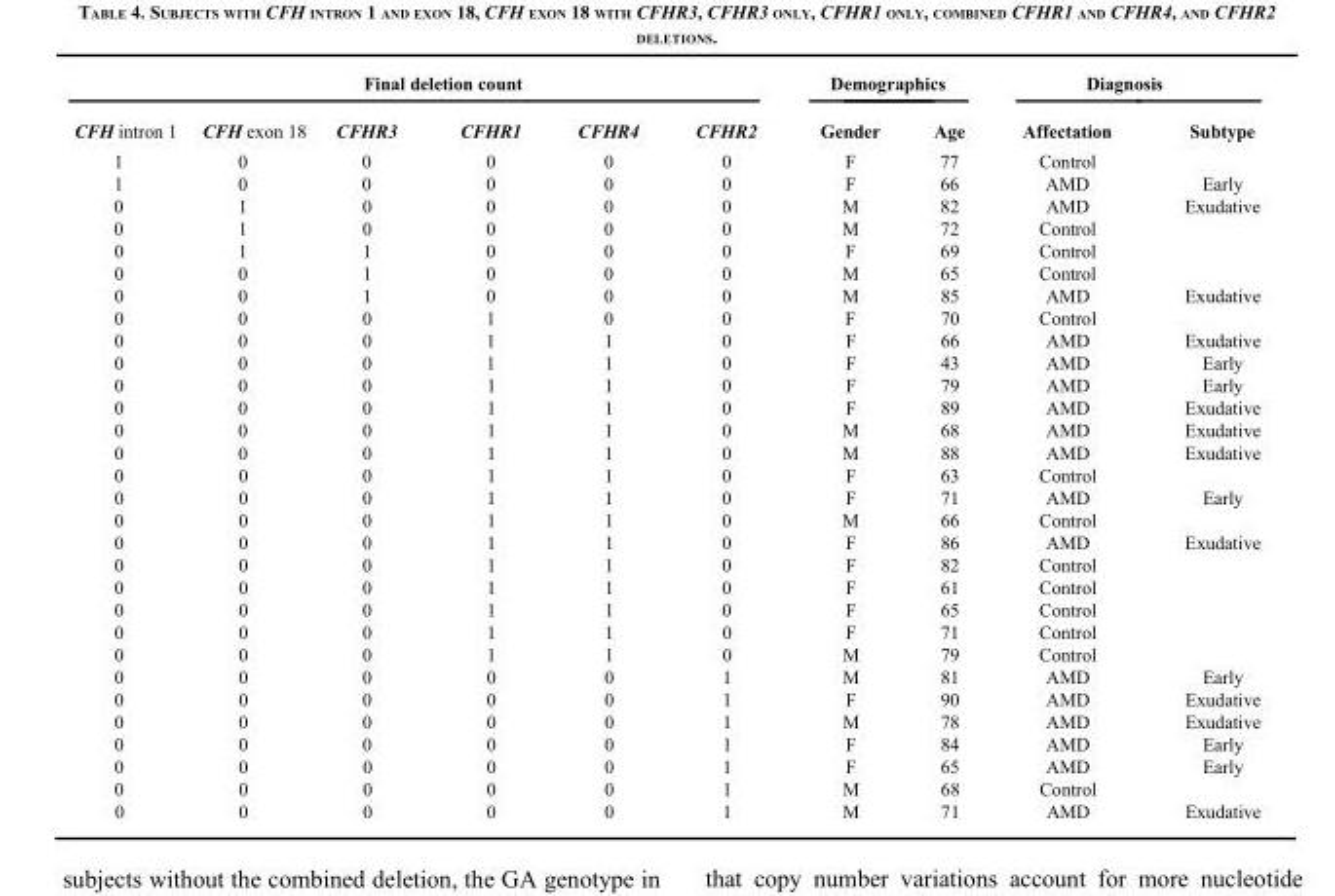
<table><thead><tr><td colspan="6">Final deletion count</td><td colspan="2">Demographics</td><td colspan="2">Diagnosis</td></tr><tr><td>CFH intron 1</td><td>CFH exon 18</td><td>CFHR3</td><td>CFHR1</td><td>CFHR4</td><td>CFHR2</td><td>Gender</td><td>Age</td><td>Affectation</td><td>Subtype</td></tr></thead><tbody><tr><td>1</td><td>0</td><td>0</td><td>0</td><td>0</td><td>0</td><td>F</td><td>77</td><td>Control</td><td></td></tr><tr><td>1</td><td>0</td><td>0</td><td>0</td><td>0</td><td>0</td><td>F</td><td>66</td><td>AMD</td><td>Early</td></tr><tr><td>0</td><td>1</td><td>0</td><td>0</td><td>0</td><td>0</td><td>M</td><td>82</td><td>AMD</td><td>Exudative</td></tr><tr><td>0</td><td>1</td><td>0</td><td>0</td><td>0</td><td>0</td><td>M</td><td>72</td><td>Control</td><td></td></tr><tr><td>0</td><td>1</td><td>1</td><td>0</td><td>0</td><td>0</td><td>F</td><td>69</td><td>Control</td><td></td></tr><tr><td>0</td><td>0</td><td>1</td><td>0</td><td>0</td><td>0</td><td>M</td><td>65</td><td>Control</td><td></td></tr><tr><td>0</td><td>0</td><td>1</td><td>0</td><td>0</td><td>0</td><td>M</td><td>85</td><td>AMD</td><td>Exudative</td></tr><tr><td>0</td><td>0</td><td>0</td><td>1</td><td>0</td><td>0</td><td>F</td><td>70</td><td>Control</td><td></td></tr><tr><td>0</td><td>0</td><td>0</td><td>1</td><td>1</td><td>0</td><td>F</td><td>66</td><td>AMD</td><td>Exudative</td></tr><tr><td>0</td><td>0</td><td>0</td><td>1</td><td>1</td><td>0</td><td>F</td><td>43</td><td>AMD</td><td>Early</td></tr><tr><td>0</td><td>0</td><td>0</td><td>1</td><td>1</td><td>0</td><td>F</td><td>79</td><td>AMD</td><td>Early</td></tr><tr><td>0</td><td>0</td><td>0</td><td>1</td><td>1</td><td>0</td><td>F</td><td>89</td><td>AMD</td><td>Exudative</td></tr><tr><td>0</td><td>0</td><td>0</td><td>1</td><td>1</td><td>0</td><td>M</td><td>68</td><td>AMD</td><td>Exudative</td></tr><tr><td>0</td><td>0</td><td>0</td><td>1</td><td>1</td><td>0</td><td>M</td><td>88</td><td>AMD</td><td>Exudative</td></tr><tr><td>0</td><td>0</td><td>0</td><td>1</td><td>1</td><td>0</td><td>F</td><td>63</td><td>Control</td><td></td></tr><tr><td>0</td><td>0</td><td>0</td><td>1</td><td>1</td><td>0</td><td>F</td><td>71</td><td>AMD</td><td>Early</td></tr><tr><td>0</td><td>0</td><td>0</td><td>1</td><td>1</td><td>0</td><td>M</td><td>66</td><td>Control</td><td></td></tr><tr><td>0</td><td>0</td><td>0</td><td>1</td><td>1</td><td>0</td><td>F</td><td>86</td><td>AMD</td><td>Exudative</td></tr><tr><td>0</td><td>0</td><td>0</td><td>1</td><td>1</td><td>0</td><td>F</td><td>82</td><td>Control</td><td></td></tr><tr><td>0</td><td>0</td><td>0</td><td>1</td><td>1</td><td>0</td><td>F</td><td>61</td><td>Control</td><td></td></tr><tr><td>0</td><td>0</td><td>0</td><td>1</td><td>1</td><td>0</td><td>F</td><td>65</td><td>Control</td><td></td></tr><tr><td>0</td><td>0</td><td>0</td><td>1</td><td>1</td><td>0</td><td>F</td><td>71</td><td>Control</td><td></td></tr><tr><td>0</td><td>0</td><td>0</td><td>1</td><td>1</td><td>0</td><td>M</td><td>79</td><td>Control</td><td></td></tr><tr><td>0</td><td>0</td><td>0</td><td>0</td><td>0</td><td>1</td><td>M</td><td>81</td><td>AMD</td><td>Early</td></tr><tr><td>0</td><td>0</td><td>0</td><td>0</td><td>0</td><td>1</td><td>F</td><td>90</td><td>AMD</td><td>Exudative</td></tr><tr><td>0</td><td>0</td><td>0</td><td>0</td><td>0</td><td>1</td><td>M</td><td>78</td><td>AMD</td><td>Exudative</td></tr><tr><td>0</td><td>0</td><td>0</td><td>0</td><td>0</td><td>1</td><td>F</td><td>84</td><td>AMD</td><td>Early</td></tr><tr><td>0</td><td>0</td><td>0</td><td>0</td><td>0</td><td>1</td><td>F</td><td>65</td><td>AMD</td><td>Early</td></tr><tr><td>0</td><td>0</td><td>0</td><td>0</td><td>0</td><td>1</td><td>M</td><td>68</td><td>Control</td><td></td></tr><tr><td>0</td><td>0</td><td>0</td><td>0</td><td>0</td><td>1</td><td>M</td><td>71</td><td>AMD</td><td>Exudative</td></tr></tbody></table>